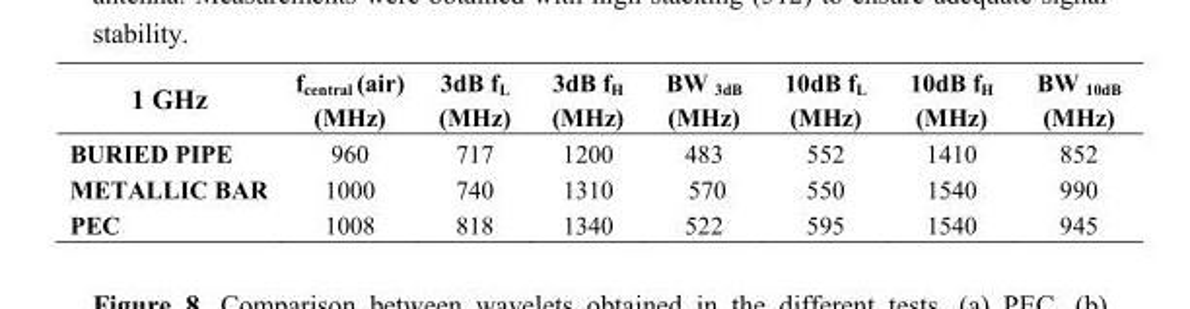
<table><thead><tr><td>1 GHz</td><td>f<sub>central</sub> (air) (MHz)</td><td>3dB f<sub>L</sub> (MHz)</td><td>3dB f<sub>H</sub> (MHz)</td><td>BW <sub>3dB</sub> (MHz)</td><td>10dB f<sub>L</sub> (MHz)</td><td>10dB f<sub>H</sub> (MHz)</td><td>BW <sub>10dB</sub> (MHz)</td></tr></thead><tbody><tr><td>BURIED PIPE</td><td>960</td><td>717</td><td>1200</td><td>483</td><td>552</td><td>1410</td><td>852</td></tr><tr><td>METALLIC BAR</td><td>1000</td><td>740</td><td>1310</td><td>570</td><td>550</td><td>1540</td><td>990</td></tr><tr><td>PEC</td><td>1008</td><td>818</td><td>1340</td><td>522</td><td>595</td><td>1540</td><td>945</td></tr></tbody></table>